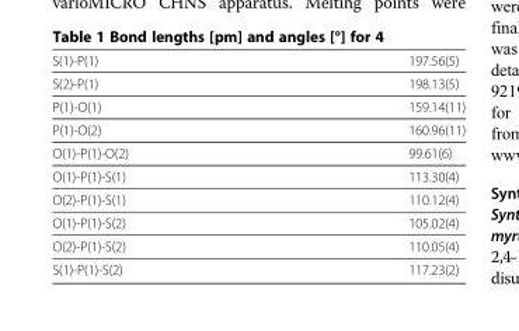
<table><tbody><tr><td>S(1)-P(1)</td><td>197.56(5)</td></tr><tr><td>S(2)-P(1)</td><td>198.13(5)</td></tr><tr><td>P(1)-O(1)</td><td>159.14(11)</td></tr><tr><td>P(1)-O(2)</td><td>160.96(11)</td></tr><tr><td>O(1)-P(1)-O(2)</td><td>99.61(6)</td></tr><tr><td>O(1)-P(1)-S(1)</td><td>113.30(4)</td></tr><tr><td>O(2)-P(1)-S(1)</td><td>110.12(4)</td></tr><tr><td>O(1)-P(1)-S(2)</td><td>105.02(4)</td></tr><tr><td>O(2)-P(1)-S(2)</td><td>110.05(4)</td></tr><tr><td>S(1)-P(1)-S(2)</td><td>117.23(2)</td></tr></tbody></table>